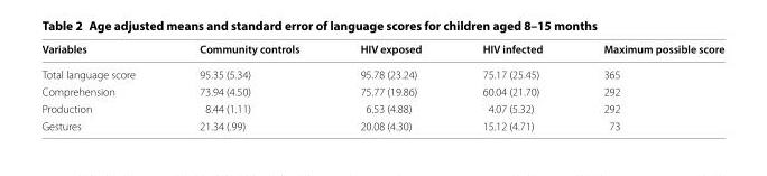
<table><thead><tr><td>Variables</td><td>Community controls</td><td>HIV exposed</td><td>HIV infected</td><td>Maximum possible score</td></tr></thead><tbody><tr><td>Total language score</td><td>95.35 (5.34)</td><td>95.78 (23.24)</td><td>75.17 (25.45)</td><td>365</td></tr><tr><td>Comprehension</td><td>73.94 (4.50)</td><td>75.77 (19.86)</td><td>60.04 (21.70)</td><td>292</td></tr><tr><td>Production</td><td>8.44 (1.11)</td><td>6.53 (4.88)</td><td>4.07 (5.32)</td><td>292</td></tr><tr><td>Gestures</td><td>21.34 (.99)</td><td>20.08 (4.30)</td><td>15.12 (4.71)</td><td>73</td></tr></tbody></table>